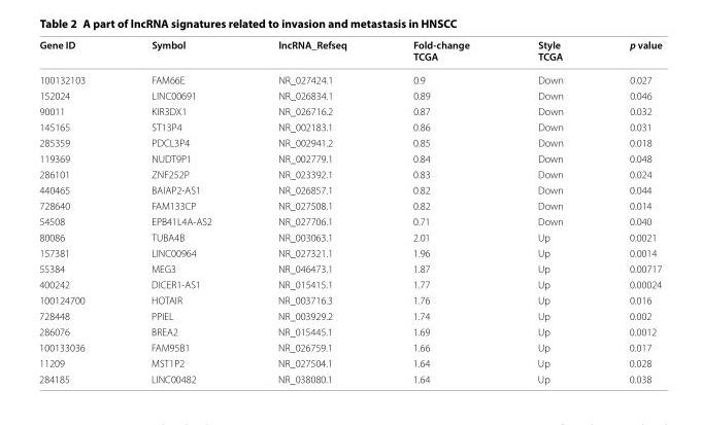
<table><thead><tr><td>Gene ID</td><td>Symbol</td><td>lncRNA_Refseq</td><td>Fold‑change TCGA</td><td>Style TCGA</td><td>p value</td></tr></thead><tbody><tr><td>100132103</td><td>FAM66E</td><td>NR_027424.1</td><td>0.9</td><td>Down</td><td>0.027</td></tr><tr><td>152024</td><td>LINC00691</td><td>NR_026834.1</td><td>0.89</td><td>Down</td><td>0.046</td></tr><tr><td>90011</td><td>KIR3DX1</td><td>NR_026716.2</td><td>0.87</td><td>Down</td><td>0.032</td></tr><tr><td>145165</td><td>ST13P4</td><td>NR_002183.1</td><td>0.86</td><td>Down</td><td>0.031</td></tr><tr><td>285359</td><td>PDCL3P4</td><td>NR_002941.2</td><td>0.85</td><td>Down</td><td>0.018</td></tr><tr><td>119369</td><td>NUDT9P1</td><td>NR_002779.1</td><td>0.84</td><td>Down</td><td>0.048</td></tr><tr><td>286101</td><td>ZNF252P</td><td>NR_023392.1</td><td>0.83</td><td>Down</td><td>0.024</td></tr><tr><td>440465</td><td>BAIAP2‑AS1</td><td>NR_026857.1</td><td>0.82</td><td>Down</td><td>0.044</td></tr><tr><td>728640</td><td>FAM133CP</td><td>NR_027508.1</td><td>0.82</td><td>Down</td><td>0.014</td></tr><tr><td>54508</td><td>EPB41L4A‑AS2</td><td>NR_027706.1</td><td>0.71</td><td>Down</td><td>0.040</td></tr><tr><td>80086</td><td>TUBA4B</td><td>NR_003063.1</td><td>2.01</td><td>Up</td><td>0.0021</td></tr><tr><td>157381</td><td>LINC00964</td><td>NR_027321.1</td><td>1.96</td><td>Up</td><td>0.0014</td></tr><tr><td>55384</td><td>MEG3</td><td>NR_046473.1</td><td>1.87</td><td>Up</td><td>0.00717</td></tr><tr><td>400242</td><td>DICER1‑AS1</td><td>NR_015415.1</td><td>1.77</td><td>Up</td><td>0.00024</td></tr><tr><td>100124700</td><td>HOTAIR</td><td>NR_003716.3</td><td>1.76</td><td>Up</td><td>0.016</td></tr><tr><td>728448</td><td>PPIEL</td><td>NR_003929.2</td><td>1.74</td><td>Up</td><td>0.002</td></tr><tr><td>286076</td><td>BREA2</td><td>NR_015445.1</td><td>1.69</td><td>Up</td><td>0.0012</td></tr><tr><td>100133036</td><td>FAM95B1</td><td>NR_026759.1</td><td>1.66</td><td>Up</td><td>0.017</td></tr><tr><td>11209</td><td>MST1P2</td><td>NR_027504.1</td><td>1.64</td><td>Up</td><td>0.028</td></tr><tr><td>284185</td><td>LINC00482</td><td>NR_038080.1</td><td>1.64</td><td>Up</td><td>0.038</td></tr></tbody></table>